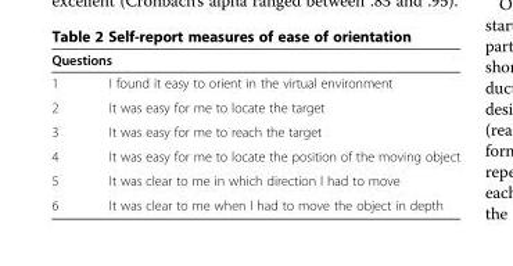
<table><thead><tr><td colspan="2">Questions</td></tr><tr><td>1</td><td>I found it easy to orient in the virtual environment</td></tr></thead><tbody><tr><td>2</td><td>It was easy for me to locate the target</td></tr><tr><td>3</td><td>It was easy for me to reach the target</td></tr><tr><td>4</td><td>It was easy for me to locate the position of the moving object</td></tr><tr><td>5</td><td>It was clear to me in which direction I had to move</td></tr><tr><td>6</td><td>It was clear to me when I had to move the object in depth</td></tr></tbody></table>